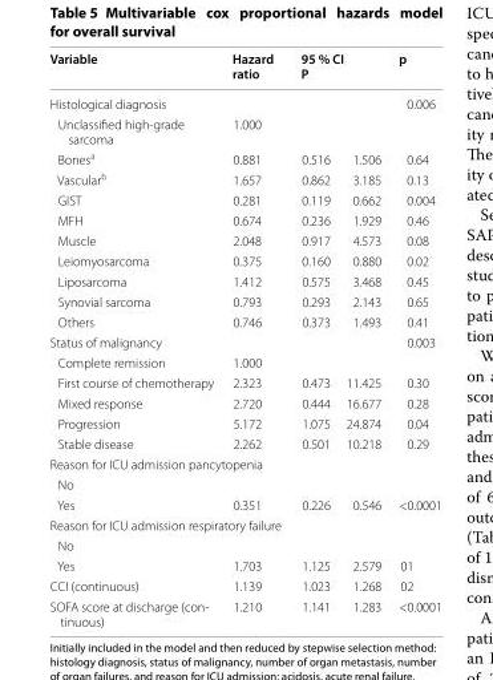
<table><thead><tr><td>Variable</td><td>Hazard ratio</td><td colspan="2">95 % CI P</td><td rowspan="3">p 0.006</td></tr><tr><td colspan="4">Histological diagnosis</td></tr><tr><td>Unclassified high-grade sarcoma</td><td>1.000</td><td></td><td></td></tr></thead><tbody><tr><td>Bones<sup>a</sup></td><td>0.881</td><td>0.516</td><td>1.506</td><td>0.64</td></tr><tr><td>Vascular<sup>b</sup></td><td>1.657</td><td>0.862</td><td>3.185</td><td>0.13</td></tr><tr><td>GIST</td><td>0.281</td><td>0.119</td><td>0.662</td><td>0.004</td></tr><tr><td>MFH</td><td>0.674</td><td>0.236</td><td>1.929</td><td>0.46</td></tr><tr><td>Muscle</td><td>2.048</td><td>0.917</td><td>4.573</td><td>0.08</td></tr><tr><td>Leiomyosarcoma</td><td>0.375</td><td>0.160</td><td>0.880</td><td>0.02</td></tr><tr><td>Liposarcoma</td><td>1.412</td><td>0.575</td><td>3.468</td><td>0.45</td></tr><tr><td>Synovial sarcoma</td><td>0.793</td><td>0.293</td><td>2.143</td><td>0.65</td></tr><tr><td>Others</td><td>0.746</td><td>0.373</td><td>1.493</td><td>0.41</td></tr><tr><td colspan="4">Status of malignancy</td><td>0.003</td></tr><tr><td>Complete remission</td><td>1.000</td><td></td><td></td><td></td></tr><tr><td>First course of chemotherapy</td><td>2.323</td><td>0.473</td><td>11.425</td><td>0.30</td></tr><tr><td>Mixed response</td><td>2.720</td><td>0.444</td><td>16.677</td><td>0.28</td></tr><tr><td>Progression</td><td>5.172</td><td>1.075</td><td>24.874</td><td>0.04</td></tr><tr><td>Stable disease</td><td>2.262</td><td>0.501</td><td>10.218</td><td>0.29</td></tr><tr><td colspan="5">Reason for ICU admission pancytopenia</td></tr><tr><td colspan="5">No</td></tr><tr><td>Yes</td><td>0.351</td><td>0.226</td><td>0.546</td><td>&lt;0.0001</td></tr><tr><td colspan="5">Reason for ICU admission respiratory failure</td></tr><tr><td colspan="5">No</td></tr><tr><td>Yes</td><td>1.703</td><td>1.125</td><td>2.579</td><td>01</td></tr><tr><td>CCI (continuous)</td><td>1.139</td><td>1.023</td><td>1.268</td><td>02</td></tr><tr><td>SOFA score at discharge (con- tinuous)</td><td>1.210</td><td>1.141</td><td>1.283</td><td>&lt;0.0001</td></tr></tbody></table>